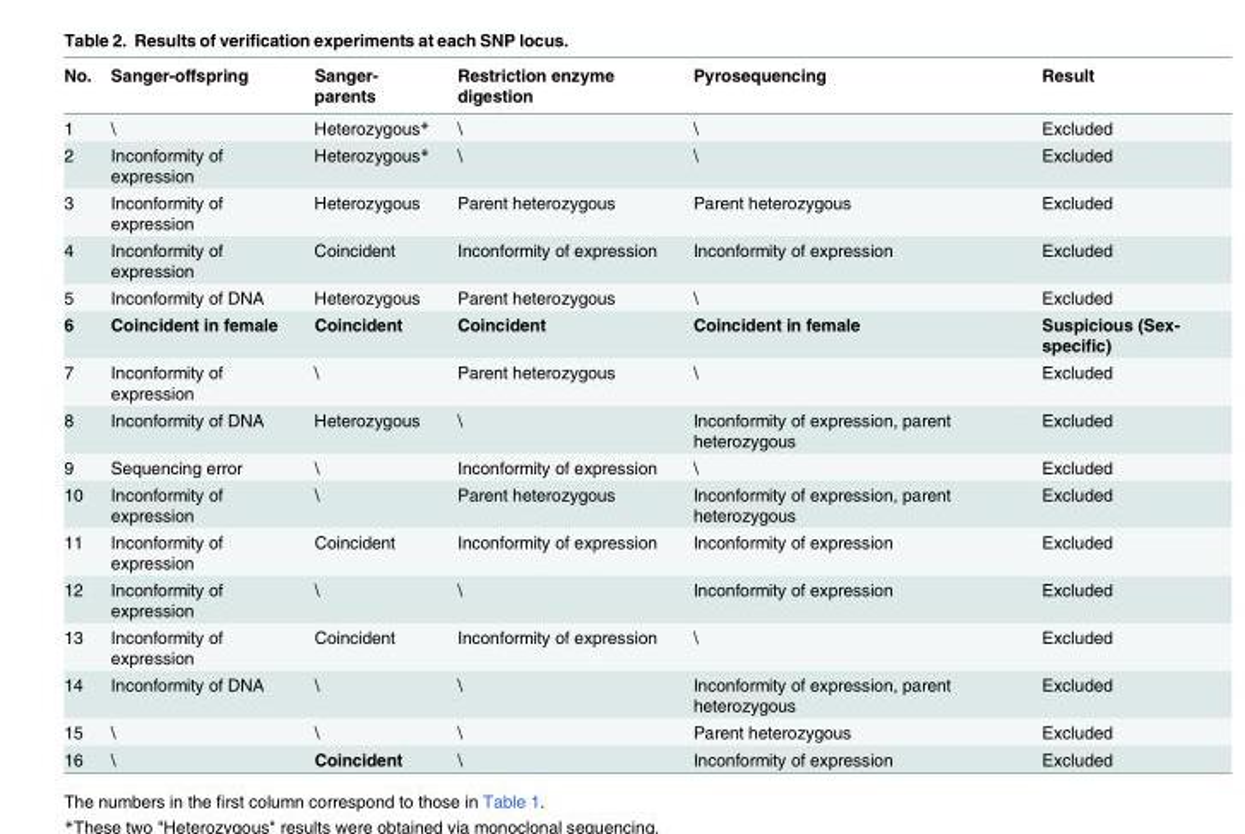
<table><thead><tr><td>No.</td><td>Sanger-offspring</td><td>Sanger- parents</td><td>Restriction enzyme digestion</td><td>Pyrosequencing</td><td>Result</td></tr></thead><tbody><tr><td>1</td><td>\</td><td>Heterozygous*</td><td>\</td><td>\</td><td>Excluded</td></tr><tr><td>2</td><td>Inconformity of expression</td><td>Heterozygous*</td><td>\</td><td>\</td><td>Excluded</td></tr><tr><td>3</td><td>Inconformity of expression</td><td>Heterozygous</td><td>Parent heterozygous</td><td>Parent heterozygous</td><td>Excluded</td></tr><tr><td>4</td><td>Inconformity of expression</td><td>Coincident</td><td>Inconformity of expression</td><td>Inconformity of expression</td><td>Excluded</td></tr><tr><td>5</td><td>Inconformity of DNA</td><td>Heterozygous</td><td>Parent heterozygous</td><td>\</td><td>Excluded</td></tr><tr><td>6</td><td>Coincident in female</td><td>Coincident</td><td>Coincident</td><td>Coincident in female</td><td>Suspicious (Sex- specific)</td></tr><tr><td>7</td><td>Inconformity of expression</td><td>\</td><td>Parent heterozygous</td><td>\</td><td>Excluded</td></tr><tr><td>8</td><td>Inconformity of DNA</td><td>Heterozygous</td><td>\</td><td>Inconformity of expression, parent heterozygous</td><td>Excluded</td></tr><tr><td>9</td><td>Sequencing error</td><td>\</td><td>Inconformity of expression</td><td>\</td><td>Excluded</td></tr><tr><td>10</td><td>Inconformity of expression</td><td>\</td><td>Parent heterozygous</td><td>Inconformity of expression, parent heterozygous</td><td>Excluded</td></tr><tr><td>11</td><td>Inconformity of expression</td><td>Coincident</td><td>Inconformity of expression</td><td>Inconformity of expression</td><td>Excluded</td></tr><tr><td>12</td><td>Inconformity of expression</td><td>\</td><td>\</td><td>Inconformity of expression</td><td>Excluded</td></tr><tr><td>13</td><td>Inconformity of expression</td><td>Coincident</td><td>Inconformity of expression</td><td>\</td><td>Excluded</td></tr><tr><td>14</td><td>Inconformity of DNA</td><td>\</td><td>\</td><td>Inconformity of expression, parent heterozygous</td><td>Excluded</td></tr><tr><td>15</td><td>\</td><td>\</td><td>\</td><td>Parent heterozygous</td><td>Excluded</td></tr><tr><td>16</td><td>\</td><td>Coincident</td><td>\</td><td>Inconformity of expression</td><td>Excluded</td></tr></tbody></table>